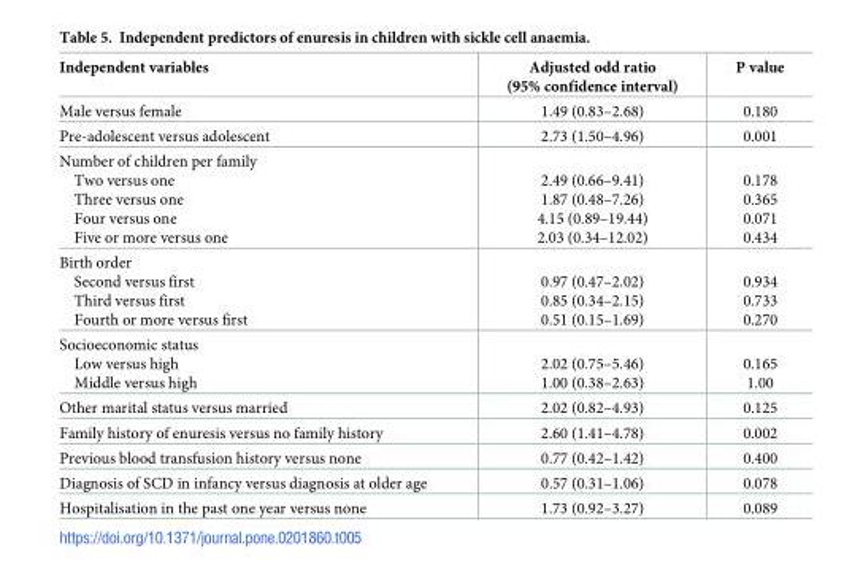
<table><thead><tr><td>Independent variables</td><td>Adjusted odd ratio (95% confidence interval)</td><td>P value</td></tr></thead><tbody><tr><td>Male versus female</td><td>1.49 (0.83–2.68)</td><td>0.180</td></tr><tr><td>Pre-adolescent versus adolescent</td><td>2.73 (1.50–4.96)</td><td>0.001</td></tr><tr><td>Number of children per family Two versus one Three versus one Four versus one Five or more versus one</td><td>2.49 (0.66–9.41) 1.87 (0.48–7.26) 4.15 (0.89–19.44) 2.03 (0.34–12.02)</td><td>0.178 0.365 0.071 0.434</td></tr><tr><td>Birth order Second versus first Third versus first Fourth or more versus first</td><td>0.97 (0.47–2.02) 0.85 (0.34–2.15) 0.51 (0.15–1.69)</td><td>0.934 0.733 0.270</td></tr><tr><td>Socioeconomic status Low versus high Middle versus high</td><td>2.02 (0.75–5.46) 1.00 (0.38–2.63)</td><td>0.165 1.00</td></tr><tr><td>Other marital status versus married</td><td>2.02 (0.82–4.93)</td><td>0.125</td></tr><tr><td>Family history of enuresis versus no family history</td><td>2.60 (1.41–4.78)</td><td>0.002</td></tr><tr><td>Previous blood transfusion history versus none</td><td>0.77 (0.42–1.42)</td><td>0.400</td></tr><tr><td>Diagnosis of SCD in infancy versus diagnosis at older age</td><td>0.57 (0.31–1.06)</td><td>0.078</td></tr><tr><td>Hospitalisation in the past one year versus none</td><td>1.73 (0.92–3.27)</td><td>0.089</td></tr></tbody></table>